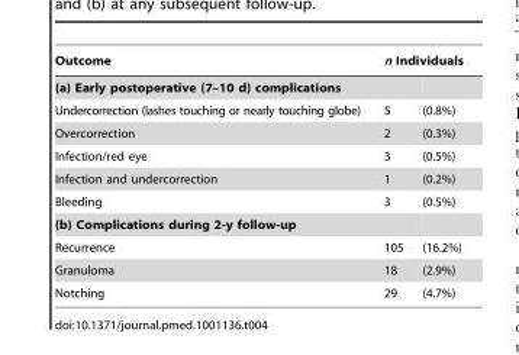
<table><thead><tr><td rowspan="2">Outcome (a) Early postoperative (7–10 d) complications</td><td colspan="2">n Individuals</td></tr><tr><td></td><td></td></tr></thead><tbody><tr><td>Undercorrection (lashes touching or nearly touching globe)</td><td>5</td><td>(0.8%)</td></tr><tr><td>Overcorrection</td><td>2</td><td>(0.3%)</td></tr><tr><td>Infection/red eye</td><td>3</td><td>(0.5%)</td></tr><tr><td>Infection and undercorrection</td><td>1</td><td>(0.2%)</td></tr><tr><td>Bleeding</td><td>3</td><td>(0.5%)</td></tr><tr><td colspan="3">(b) Complications during 2-y follow-up</td></tr><tr><td>Recurrence</td><td>105</td><td>(16.2%)</td></tr><tr><td>Granuloma</td><td>18</td><td>(2.9%)</td></tr><tr><td>Notching</td><td>29</td><td>(4.7%)</td></tr></tbody></table>